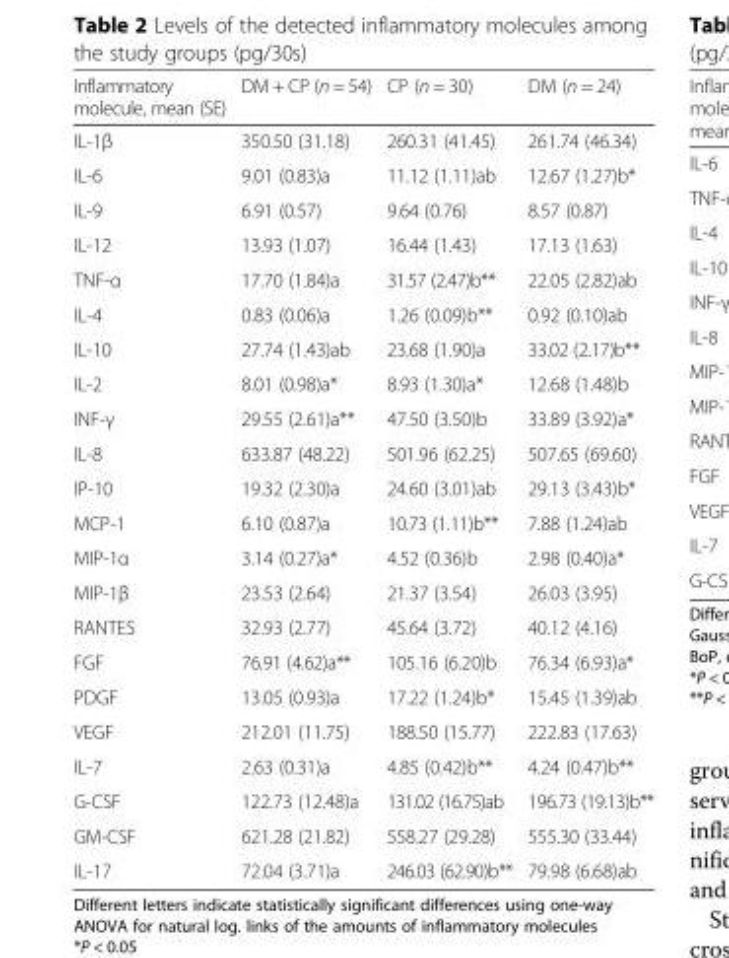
<table><thead><tr><td>Inflammatory molecule, mean (SE)</td><td>DM + CP (n = 54)</td><td>CP (n = 30)</td><td>DM (n = 24)</td></tr></thead><tbody><tr><td>IL-1β</td><td>350.50 (31.18)</td><td>260.31 (41.45)</td><td>261.74 (46.34)</td></tr><tr><td>IL-6</td><td>9.01 (0.83)a</td><td>11.12 (1.11)ab</td><td>12.67 (1.27)b*</td></tr><tr><td>IL-9</td><td>6.91 (0.57)</td><td>9.64 (0.76)</td><td>8.57 (0.87)</td></tr><tr><td>IL-12</td><td>13.93 (1.07)</td><td>16.44 (1.43)</td><td>17.13 (1.63)</td></tr><tr><td>TNF-α</td><td>17.70 (1.84)a</td><td>31.57 (2.47)b**</td><td>22.05 (2.82)ab</td></tr><tr><td>IL-4</td><td>0.83 (0.06)a</td><td>1.26 (0.09)b**</td><td>0.92 (0.10)ab</td></tr><tr><td>IL-10</td><td>27.74 (1.43)ab</td><td>23.68 (1.90)a</td><td>33.02 (2.17)b**</td></tr><tr><td>IL-2</td><td>8.01 (0.98)a*</td><td>8.93 (1.30)a*</td><td>12.68 (1.48)b</td></tr><tr><td>INF-γ</td><td>29.55 (2.61)a**</td><td>47.50 (3.50)b</td><td>33.89 (3.92)a*</td></tr><tr><td>IL-8</td><td>633.87 (48.22)</td><td>501.96 (62.25)</td><td>507.65 (69.60)</td></tr><tr><td>IP-10</td><td>19.32 (2.30)a</td><td>24.60 (3.01)ab</td><td>29.13 (3.43)b*</td></tr><tr><td>MCP-1</td><td>6.10 (0.87)a</td><td>10.73 (1.11)b**</td><td>7.88 (1.24)ab</td></tr><tr><td>MIP-1α</td><td>3.14 (0.27)a*</td><td>4.52 (0.36)b</td><td>2.98 (0.40)a*</td></tr><tr><td>MIP-1β</td><td>23.53 (2.64)</td><td>21.37 (3.54)</td><td>26.03 (3.95)</td></tr><tr><td>RANTES</td><td>32.93 (2.77)</td><td>45.64 (3.72)</td><td>40.12 (4.16)</td></tr><tr><td>FGF</td><td>76.91 (4.62)a**</td><td>105.16 (6.20)b</td><td>76.34 (6.93)a*</td></tr><tr><td>PDGF</td><td>13.05 (0.93)a</td><td>17.22 (1.24)b*</td><td>15.45 (1.39)ab</td></tr><tr><td>VEGF</td><td>212.01 (11.75)</td><td>188.50 (15.77)</td><td>222.83 (17.63)</td></tr><tr><td>IL-7</td><td>2.63 (0.31)a</td><td>4.85 (0.42)b**</td><td>4.24 (0.47)b**</td></tr><tr><td>G-CSF</td><td>122.73 (12.48)a</td><td>131.02 (16.75)ab</td><td>196.73 (19.13)b**</td></tr><tr><td>GM-CSF</td><td>621.28 (21.82)</td><td>558.27 (29.28)</td><td>555.30 (33.44)</td></tr><tr><td>IL-17</td><td>72.04 (3.71)a</td><td>246.03 (62.90)b**</td><td>79.98 (6.68)ab</td></tr></tbody></table>